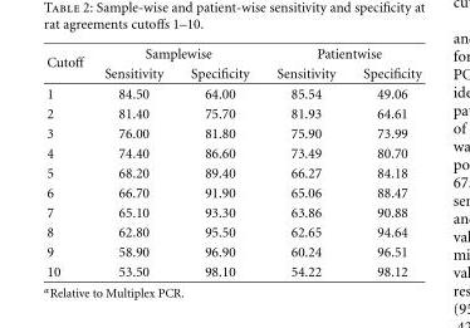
<table><thead><tr><td rowspan="2">Cutoff</td><td colspan="2">Samplewise</td><td colspan="2">Patientwise</td></tr><tr><td>Sensitivity</td><td>Specificity</td><td>Sensitivity</td><td>Specificity</td></tr></thead><tbody><tr><td>1</td><td>84.50</td><td>64.00</td><td>85.54</td><td>49.06</td></tr><tr><td>2</td><td>81.40</td><td>75.70</td><td>81.93</td><td>64.61</td></tr><tr><td>3</td><td>76.00</td><td>81.80</td><td>75.90</td><td>73.99</td></tr><tr><td>4</td><td>74.40</td><td>86.60</td><td>73.49</td><td>80.70</td></tr><tr><td>5</td><td>68.20</td><td>89.40</td><td>66.27</td><td>84.18</td></tr><tr><td>6</td><td>66.70</td><td>91.90</td><td>65.06</td><td>88.47</td></tr><tr><td>7</td><td>65.10</td><td>93.30</td><td>63.86</td><td>90.88</td></tr><tr><td>8</td><td>62.80</td><td>95.50</td><td>62.65</td><td>94.64</td></tr><tr><td>9</td><td>58.90</td><td>96.90</td><td>60.24</td><td>96.51</td></tr><tr><td>10</td><td>53.50</td><td>98.10</td><td>54.22</td><td>98.12</td></tr></tbody></table>